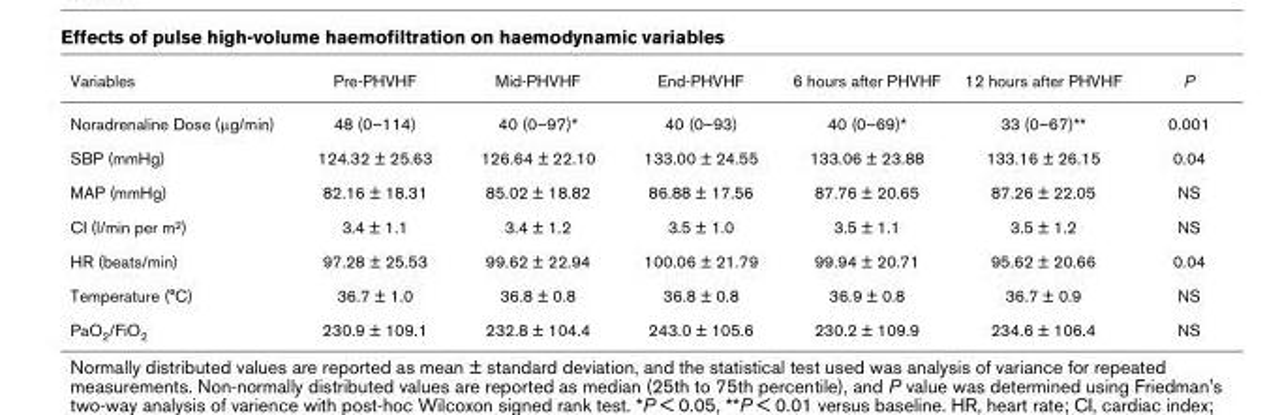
<table><thead><tr><td>Variables</td><td>Pre-PHVHF</td><td>Mid-PHVHF</td><td>End-PHVHF</td><td>6 hours after PHVHF</td><td>12 hours after PHVHF</td><td>P</td></tr></thead><tbody><tr><td>Noradrenaline Dose (µg/min)</td><td>48 (0–114)</td><td>40 (0–97)*</td><td>40 (0–93)</td><td>40 (0–69)*</td><td>33 (0–67)**</td><td>0.001</td></tr><tr><td>SBP (mmHg)</td><td>124.32 ± 25.63</td><td>126.64 ± 22.10</td><td>133.00 ± 24.55</td><td>133.06 ± 23.88</td><td>133.16 ± 26.15</td><td>0.04</td></tr><tr><td>MAP (mmHg)</td><td>82.16 ± 18.31</td><td>85.02 ± 18.82</td><td>86.88 ± 17.56</td><td>87.76 ± 20.65</td><td>87.26 ± 22.05</td><td>NS</td></tr><tr><td>CI (l/min per m2)</td><td>3.4 ± 1.1</td><td>3.4 ± 1.2</td><td>3.5 ± 1.0</td><td>3.5 ± 1.1</td><td>3.5 ± 1.2</td><td>NS</td></tr><tr><td>HR (beats/min)</td><td>97.28 ± 25.53</td><td>99.62 ± 22.94</td><td>100.06 ± 21.79</td><td>99.94 ± 20.71</td><td>95.62 ± 20.66</td><td>0.04</td></tr><tr><td>Temperature (°C)</td><td>36.7 ± 1.0</td><td>36.8 ± 0.8</td><td>36.8 ± 0.8</td><td>36.9 ± 0.8</td><td>36.7 ± 0.9</td><td>NS</td></tr><tr><td>PaO2/FiO2</td><td>230.9 ± 109.1</td><td>232.8 ± 104.4</td><td>243.0 ± 105.6</td><td>230.2 ± 109.9</td><td>234.6 ± 106.4</td><td>NS</td></tr></tbody></table>